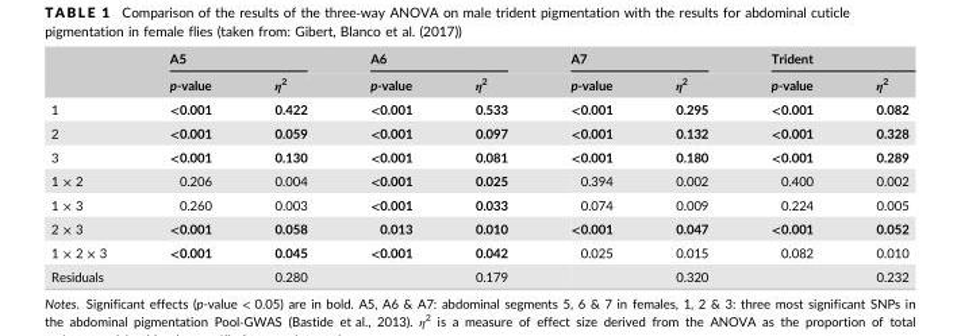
<table><thead><tr><td rowspan="2"></td><td colspan="2">A5</td><td colspan="2">A6</td><td colspan="2">A7</td><td colspan="2">Trident</td></tr><tr><td>p-value</td><td>η<sup>2</sup></td><td>p-value</td><td>η<sup>2</sup></td><td>p-value</td><td>η<sup>2</sup></td><td>p-value</td><td>η<sup>2</sup></td></tr></thead><tbody><tr><td>1</td><td>&lt;0.001</td><td>0.422</td><td>&lt;0.001</td><td>0.533</td><td>&lt;0.001</td><td>0.295</td><td>&lt;0.001</td><td>0.082</td></tr><tr><td>2</td><td>&lt;0.001</td><td>0.059</td><td>&lt;0.001</td><td>0.097</td><td>&lt;0.001</td><td>0.132</td><td>&lt;0.001</td><td>0.328</td></tr><tr><td>3</td><td>&lt;0.001</td><td>0.130</td><td>&lt;0.001</td><td>0.081</td><td>&lt;0.001</td><td>0.180</td><td>&lt;0.001</td><td>0.289</td></tr><tr><td>1 × 2</td><td>0.206</td><td>0.004</td><td>&lt;0.001</td><td>0.025</td><td>0.394</td><td>0.002</td><td>0.400</td><td>0.002</td></tr><tr><td>1 × 3</td><td>0.260</td><td>0.003</td><td>&lt;0.001</td><td>0.033</td><td>0.074</td><td>0.009</td><td>0.224</td><td>0.005</td></tr><tr><td>2 × 3</td><td>&lt;0.001</td><td>0.058</td><td>0.013</td><td>0.010</td><td>&lt;0.001</td><td>0.047</td><td>&lt;0.001</td><td>0.052</td></tr><tr><td>1 × 2 × 3</td><td>&lt;0.001</td><td>0.045</td><td>&lt;0.001</td><td>0.042</td><td>0.025</td><td>0.015</td><td>0.082</td><td>0.010</td></tr><tr><td>Residuals</td><td></td><td>0.280</td><td></td><td>0.179</td><td></td><td>0.320</td><td></td><td>0.232</td></tr></tbody></table>